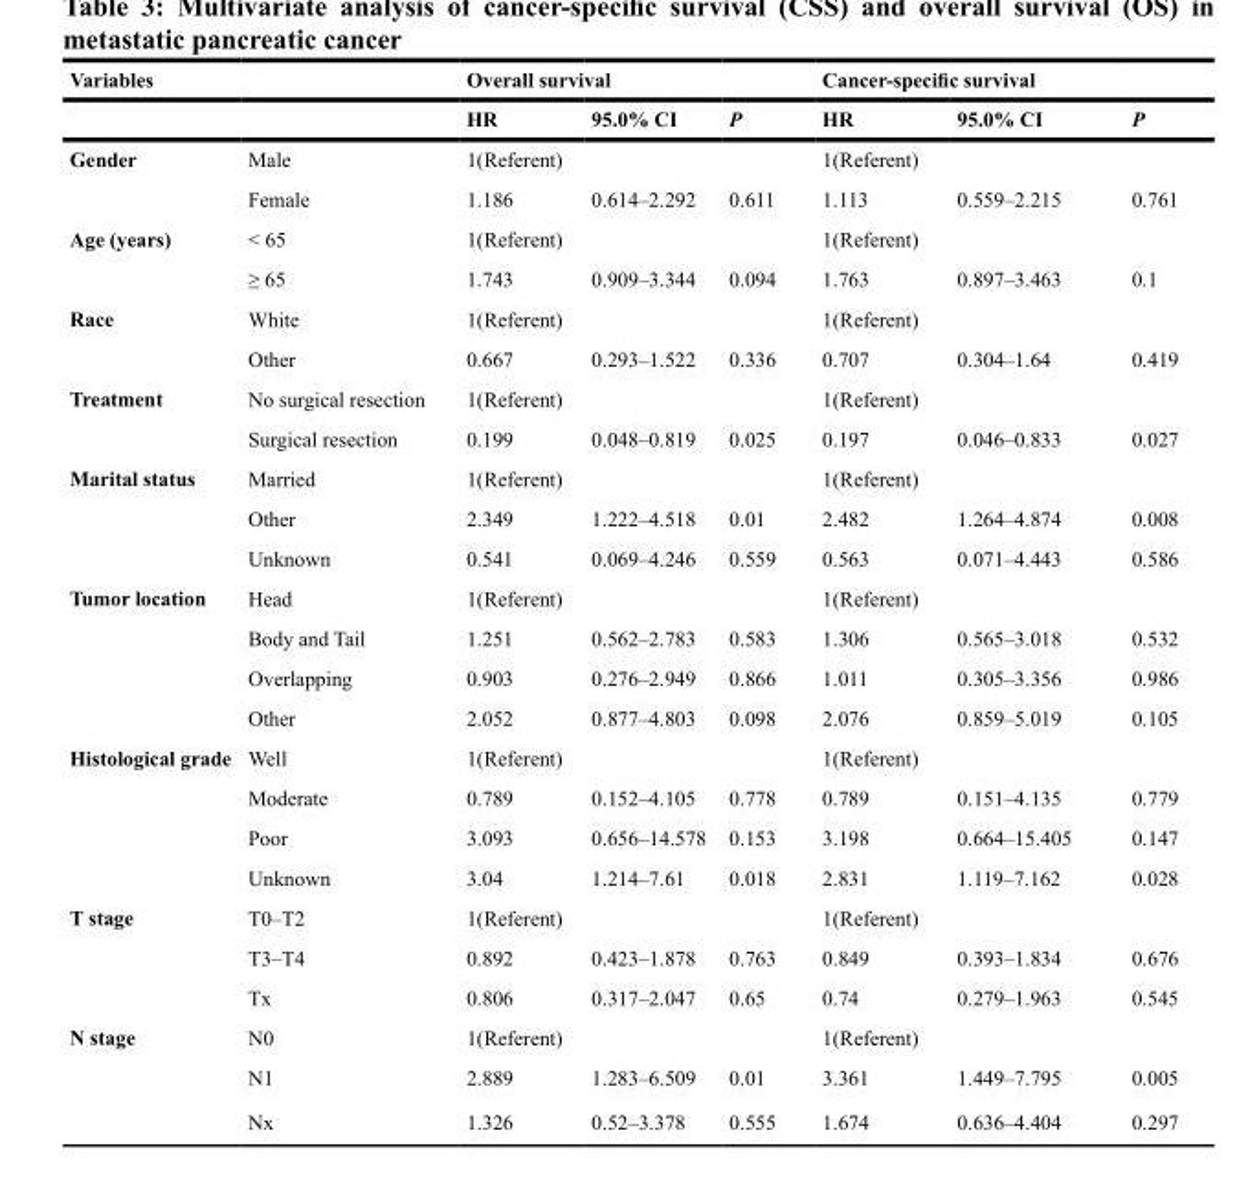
<table><thead><tr><td colspan="2">Variables</td><td colspan="3">Overall survival</td><td colspan="3">Cancer-specific survival</td></tr><tr><td></td><td></td><td>HR</td><td>95.0% CI</td><td>P</td><td>HR</td><td>95.0% CI</td><td>P</td></tr></thead><tbody><tr><td rowspan="2">Gender</td><td>Male</td><td>1(Referent)</td><td></td><td></td><td>1(Referent)</td><td></td><td></td></tr><tr><td>Female</td><td>1.186</td><td>0.614–2.292</td><td>0.611</td><td>1.113</td><td>0.559–2.215</td><td>0.761</td></tr><tr><td rowspan="2">Age (years)</td><td>&lt; 65</td><td>1(Referent)</td><td></td><td></td><td>1(Referent)</td><td></td><td></td></tr><tr><td>≥ 65</td><td>1.743</td><td>0.909–3.344</td><td>0.094</td><td>1.763</td><td>0.897–3.463</td><td>0.1</td></tr><tr><td rowspan="2">Race</td><td>White</td><td>1(Referent)</td><td></td><td></td><td>1(Referent)</td><td></td><td></td></tr><tr><td>Other</td><td>0.667</td><td>0.293–1.522</td><td>0.336</td><td>0.707</td><td>0.304–1.64</td><td>0.419</td></tr><tr><td rowspan="2">Treatment</td><td>No surgical resection</td><td>1(Referent)</td><td></td><td></td><td>1(Referent)</td><td></td><td></td></tr><tr><td>Surgical resection</td><td>0.199</td><td>0.048–0.819</td><td>0.025</td><td>0.197</td><td>0.046–0.833</td><td>0.027</td></tr><tr><td rowspan="3">Marital status</td><td>Married</td><td>1(Referent)</td><td></td><td></td><td>1(Referent)</td><td></td><td></td></tr><tr><td>Other</td><td>2.349</td><td>1.222–4.518</td><td>0.01</td><td>2.482</td><td>1.264–4.874</td><td>0.008</td></tr><tr><td>Unknown</td><td>0.541</td><td>0.069–4.246</td><td>0.559</td><td>0.563</td><td>0.071–4.443</td><td>0.586</td></tr><tr><td rowspan="4">Tumor location</td><td>Head</td><td>1(Referent)</td><td></td><td></td><td>1(Referent)</td><td></td><td></td></tr><tr><td>Body and Tail</td><td>1.251</td><td>0.562–2.783</td><td>0.583</td><td>1.306</td><td>0.565–3.018</td><td>0.532</td></tr><tr><td>Overlapping</td><td>0.903</td><td>0.276–2.949</td><td>0.866</td><td>1.011</td><td>0.305–3.356</td><td>0.986</td></tr><tr><td>Other</td><td>2.052</td><td>0.877–4.803</td><td>0.098</td><td>2.076</td><td>0.859–5.019</td><td>0.105</td></tr><tr><td rowspan="4">Histological grade</td><td>Well</td><td>1(Referent)</td><td></td><td></td><td>1(Referent)</td><td></td><td></td></tr><tr><td>Moderate</td><td>0.789</td><td>0.152–4.105</td><td>0.778</td><td>0.789</td><td>0.151–4.135</td><td>0.779</td></tr><tr><td>Poor</td><td>3.093</td><td>0.656–14.578</td><td>0.153</td><td>3.198</td><td>0.664–15.405</td><td>0.147</td></tr><tr><td>Unknown</td><td>3.04</td><td>1.214–7.61</td><td>0.018</td><td>2.831</td><td>1.119–7.162</td><td>0.028</td></tr><tr><td rowspan="3">T stage</td><td>T0–T2</td><td>1(Referent)</td><td></td><td></td><td>1(Referent)</td><td></td><td></td></tr><tr><td>T3–T4</td><td>0.892</td><td>0.423–1.878</td><td>0.763</td><td>0.849</td><td>0.393–1.834</td><td>0.676</td></tr><tr><td>Tx</td><td>0.806</td><td>0.317–2.047</td><td>0.65</td><td>0.74</td><td>0.279–1.963</td><td>0.545</td></tr><tr><td rowspan="3">N stage</td><td>N0</td><td>1(Referent)</td><td></td><td></td><td>1(Referent)</td><td></td><td></td></tr><tr><td>N1</td><td>2.889</td><td>1.283–6.509</td><td>0.01</td><td>3.361</td><td>1.449–7.795</td><td>0.005</td></tr><tr><td>Nx</td><td>1.326</td><td>0.52–3.378</td><td>0.555</td><td>1.674</td><td>0.636–4.404</td><td>0.297</td></tr></tbody></table>